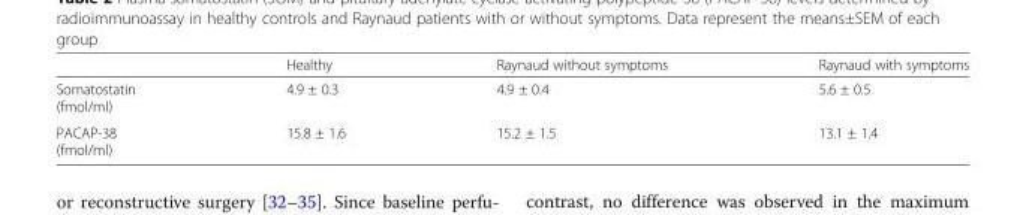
<table><thead><tr><td></td><td>Healthy</td><td>Raynaud without symptoms</td><td>Raynaud with symptoms</td></tr></thead><tbody><tr><td>Somatostatin (fmol/ml)</td><td>4.9 ± 0.3</td><td>4.9 ± 0.4</td><td>5.6 ± 0.5</td></tr><tr><td>PACAP-38 (fmol/ml)</td><td>15.8 ± 1.6</td><td>15.2 ± 1.5</td><td>13.1 ± 1.4</td></tr></tbody></table>